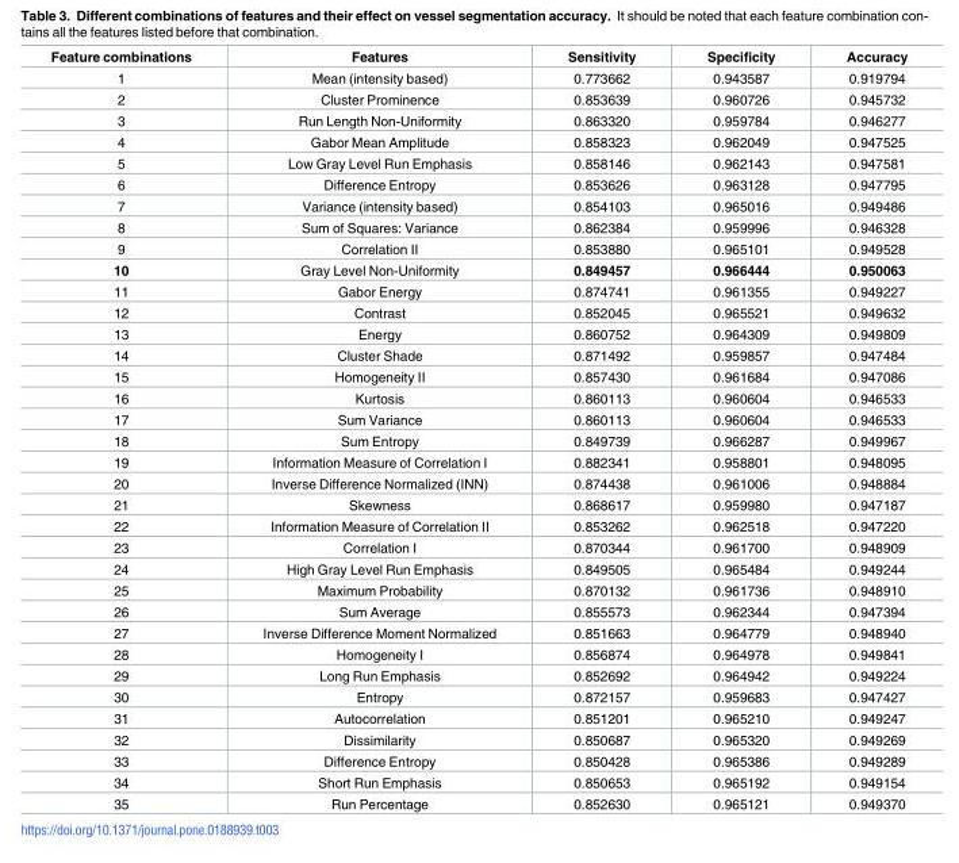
<table><thead><tr><td>Feature combinations</td><td>Features</td><td>Sensitivity</td><td>Specificity</td><td>Accuracy</td></tr></thead><tbody><tr><td>1</td><td>Mean (intensity based)</td><td>0.773662</td><td>0.943587</td><td>0.919794</td></tr><tr><td>2</td><td>Cluster Prominence</td><td>0.853639</td><td>0.960726</td><td>0.945732</td></tr><tr><td>3</td><td>Run Length Non-Uniformity</td><td>0.863320</td><td>0.959784</td><td>0.946277</td></tr><tr><td>4</td><td>Gabor Mean Amplitude</td><td>0.858323</td><td>0.962049</td><td>0.947525</td></tr><tr><td>5</td><td>Low Gray Level Run Emphasis</td><td>0.858146</td><td>0.962143</td><td>0.947581</td></tr><tr><td>6</td><td>Difference Entropy</td><td>0.853626</td><td>0.963128</td><td>0.947795</td></tr><tr><td>7</td><td>Variance (intensity based)</td><td>0.854103</td><td>0.965016</td><td>0.949486</td></tr><tr><td>8</td><td>Sum of Squares: Variance</td><td>0.862384</td><td>0.959996</td><td>0.946328</td></tr><tr><td>9</td><td>Correlation II</td><td>0.853880</td><td>0.965101</td><td>0.949528</td></tr><tr><td>10</td><td>Gray Level Non-Uniformity</td><td>0.849457</td><td>0.966444</td><td>0.950063</td></tr><tr><td>11</td><td>Gabor Energy</td><td>0.874741</td><td>0.961355</td><td>0.949227</td></tr><tr><td>12</td><td>Contrast</td><td>0.852045</td><td>0.965521</td><td>0.949632</td></tr><tr><td>13</td><td>Energy</td><td>0.860752</td><td>0.964309</td><td>0.949809</td></tr><tr><td>14</td><td>Cluster Shade</td><td>0.871492</td><td>0.959857</td><td>0.947484</td></tr><tr><td>15</td><td>Homogeneity II</td><td>0.857430</td><td>0.961684</td><td>0.947086</td></tr><tr><td>16</td><td>Kurtosis</td><td>0.860113</td><td>0.960604</td><td>0.946533</td></tr><tr><td>17</td><td>Sum Variance</td><td>0.860113</td><td>0.960604</td><td>0.946533</td></tr><tr><td>18</td><td>Sum Entropy</td><td>0.849739</td><td>0.966287</td><td>0.949967</td></tr><tr><td>19</td><td>Information Measure of Correlation I</td><td>0.882341</td><td>0.958801</td><td>0.948095</td></tr><tr><td>20</td><td>Inverse Difference Normalized (INN)</td><td>0.874438</td><td>0.961006</td><td>0.948884</td></tr><tr><td>21</td><td>Skewness</td><td>0.868617</td><td>0.959980</td><td>0.947187</td></tr><tr><td>22</td><td>Information Measure of Correlation II</td><td>0.853262</td><td>0.962518</td><td>0.947220</td></tr><tr><td>23</td><td>Correlation I</td><td>0.870344</td><td>0.961700</td><td>0.948909</td></tr><tr><td>24</td><td>High Gray Level Run Emphasis</td><td>0.849505</td><td>0.965484</td><td>0.949244</td></tr><tr><td>25</td><td>Maximum Probability</td><td>0.870132</td><td>0.961736</td><td>0.948910</td></tr><tr><td>26</td><td>Sum Average</td><td>0.855573</td><td>0.962344</td><td>0.947394</td></tr><tr><td>27</td><td>Inverse Difference Moment Normalized</td><td>0.851663</td><td>0.964779</td><td>0.948940</td></tr><tr><td>28</td><td>Homogeneity I</td><td>0.856874</td><td>0.964978</td><td>0.949841</td></tr><tr><td>29</td><td>Long Run Emphasis</td><td>0.852692</td><td>0.964942</td><td>0.949224</td></tr><tr><td>30</td><td>Entropy</td><td>0.872157</td><td>0.959683</td><td>0.947427</td></tr><tr><td>31</td><td>Autocorrelation</td><td>0.851201</td><td>0.965210</td><td>0.949247</td></tr><tr><td>32</td><td>Dissimilarity</td><td>0.850687</td><td>0.965320</td><td>0.949269</td></tr><tr><td>33</td><td>Difference Entropy</td><td>0.850428</td><td>0.965386</td><td>0.949289</td></tr><tr><td>34</td><td>Short Run Emphasis</td><td>0.850653</td><td>0.965192</td><td>0.949154</td></tr><tr><td>35</td><td>Run Percentage</td><td>0.852630</td><td>0.965121</td><td>0.949370</td></tr></tbody></table>